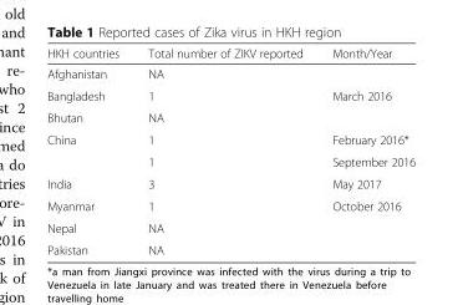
<table><thead><tr><td>HKH countries</td><td>Total number of ZIKV reported</td><td>Month/Year</td></tr></thead><tbody><tr><td>Afghanistan</td><td>NA</td><td></td></tr><tr><td>Bangladesh</td><td>1</td><td>March 2016</td></tr><tr><td>Bhutan</td><td>NA</td><td></td></tr><tr><td rowspan="2">China</td><td>1</td><td>February 2016*</td></tr><tr><td>1</td><td>September 2016</td></tr><tr><td>India</td><td>3</td><td>May 2017</td></tr><tr><td>Myanmar</td><td>1</td><td>October 2016</td></tr><tr><td>Nepal</td><td>NA</td><td></td></tr><tr><td>Pakistan</td><td>NA</td><td></td></tr></tbody></table>